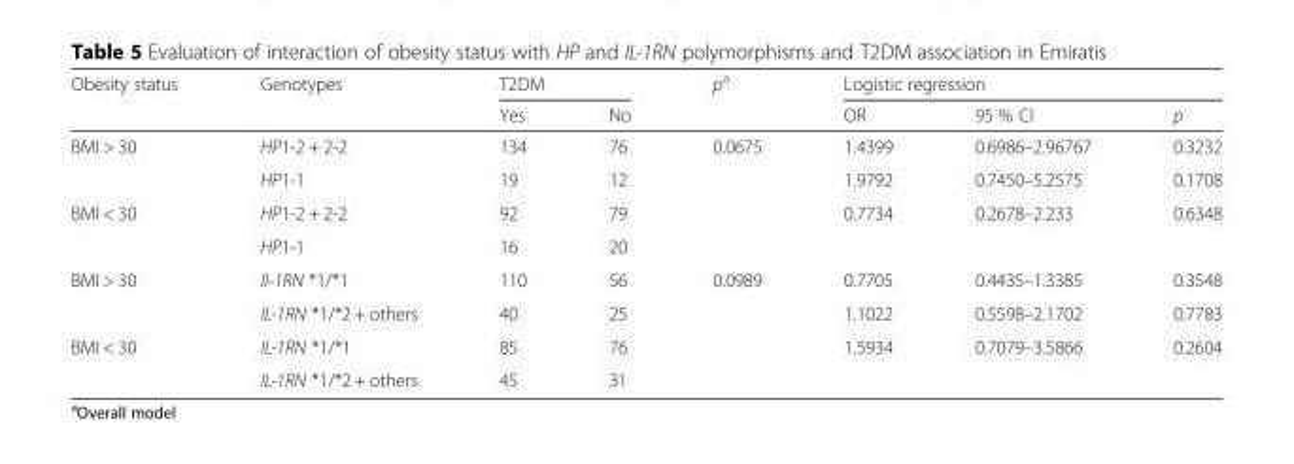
<table><thead><tr><td rowspan="2">Obesity status</td><td rowspan="2">Genotypes</td><td colspan="2">T2DM</td><td rowspan="2">p<sup>a</sup></td><td colspan="3">Logistic regression</td></tr><tr><td>Yes</td><td>No</td><td>OR</td><td>95 % CI</td><td>p</td></tr></thead><tbody><tr><td rowspan="2">BMI &gt; 30</td><td>HP1-2 + 2-2</td><td>134</td><td>76</td><td rowspan="4">0.0675</td><td>1.4399</td><td>0.6986–2.96767</td><td>0.3232</td></tr><tr><td>HP1-1</td><td>19</td><td>12</td><td>1.9792</td><td>0.7450–5.2575</td><td>0.1708</td></tr><tr><td rowspan="2">BMI &lt; 30</td><td>HP1-2 + 2-2</td><td>92</td><td>79</td><td rowspan="2">0.7734</td><td rowspan="2">0.2678–2.233</td><td rowspan="2">0.6348</td></tr><tr><td>HP1-1</td><td>16</td><td>20</td></tr><tr><td rowspan="2">BMI &gt; 30</td><td>Il-1RN *1/*1</td><td>110</td><td>56</td><td rowspan="4">0.0989</td><td>0.7705</td><td>0.4435–1.3385</td><td>0.3548</td></tr><tr><td>IL-1RN *1/*2 + others</td><td>40</td><td>25</td><td>1.1022</td><td>0.5598–2.1702</td><td>0.7783</td></tr><tr><td rowspan="2">BMI &lt; 30</td><td>IL-1RN *1/*1</td><td>85</td><td>76</td><td rowspan="2">1.5934</td><td rowspan="2">0.7079–3.5866</td><td rowspan="2">0.2604</td></tr><tr><td>IL-1RN *1/*2 + others</td><td>45</td><td>31</td></tr></tbody></table>